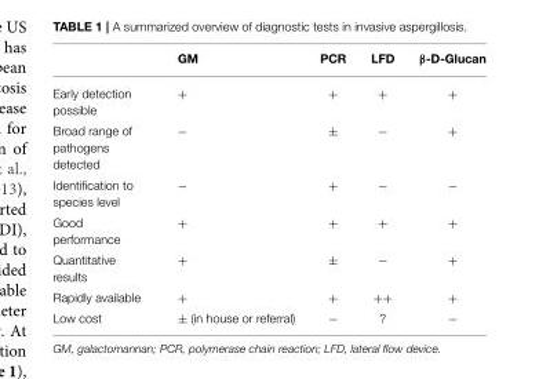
<table><thead><tr><td></td><td>GM</td><td>PCR</td><td>LFD</td><td>β-D-Glucan</td></tr></thead><tbody><tr><td>Early detection possible</td><td>+</td><td>+</td><td>+</td><td>+</td></tr><tr><td>Broad range of pathogens detected</td><td>−</td><td>±</td><td>−</td><td>+</td></tr><tr><td>Identification to species level</td><td>−</td><td>+</td><td>−</td><td>−</td></tr><tr><td>Good performance</td><td>+</td><td>+</td><td>+</td><td>+</td></tr><tr><td>Quantitative results</td><td>+</td><td>±</td><td>−</td><td>+</td></tr><tr><td>Rapidly available</td><td>+</td><td>+</td><td>++</td><td>+</td></tr><tr><td>Low cost</td><td>± (in house or referral)</td><td>−</td><td>?</td><td>−</td></tr></tbody></table>